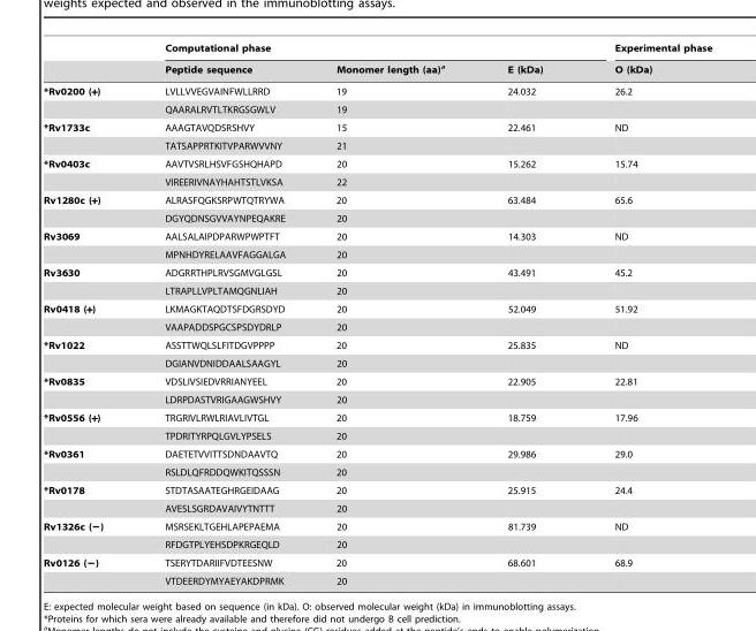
<table><thead><tr><td rowspan="2"></td><td colspan="3">Computational phase</td><td rowspan="2">Experimental phase O (kDa)</td></tr><tr><td>Peptide sequence</td><td>Monomer length (aa)<sup>a</sup></td><td>E (kDa)</td></tr></thead><tbody><tr><td rowspan="2">*Rv0200 (+)</td><td>LVLLVVEGVAINFWLLRRD</td><td>19</td><td>24.032</td><td>26.2</td></tr><tr><td>QAARALRVTLTKRGSGWLV</td><td>19</td><td></td><td></td></tr><tr><td rowspan="2">*Rv1733c</td><td>AAAGTAVQDSRSHVY</td><td>15</td><td>22.461</td><td>ND</td></tr><tr><td>TATSAPPRTKITVPARWVVNY</td><td>21</td><td></td><td></td></tr><tr><td rowspan="2">*Rv0403c</td><td>AAVTVSRLHSVFGSHQHAPD</td><td>20</td><td>15.262</td><td>15.74</td></tr><tr><td>VIREERIVNAYHAHTSTLVKSA</td><td>22</td><td></td><td></td></tr><tr><td rowspan="2">Rv1280c (+)</td><td>ALRASFQGKSRPWTQTRYWA</td><td>20</td><td>63.484</td><td>65.6</td></tr><tr><td>DGYQDNSGVVAYNPEQAKRE</td><td>20</td><td></td><td></td></tr><tr><td rowspan="2">Rv3069</td><td>AALSALAIPDPARWPWPTFT</td><td>20</td><td>14.303</td><td>ND</td></tr><tr><td>MPNHDYRELAAVFAGGALGA</td><td>20</td><td></td><td></td></tr><tr><td rowspan="2">Rv3630</td><td>ADGRRTHPLRVSGMVGLGSL</td><td>20</td><td>43.491</td><td>45.2</td></tr><tr><td>LTRAPLLVPLTAMQGNLIAH</td><td>20</td><td></td><td></td></tr><tr><td rowspan="2">Rv0418 (+)</td><td>LKMAGKTAQDTSFDGRSDYD</td><td>20</td><td>52.049</td><td>51.92</td></tr><tr><td>VAAPADDSPGCSPSDYDRLP</td><td>20</td><td></td><td></td></tr><tr><td rowspan="2">*Rv1022</td><td>ASSTTWQLSLFITDGVPPPP</td><td>20</td><td>25.835</td><td>ND</td></tr><tr><td>DGIANVDNIDDAALSAAGYL</td><td>20</td><td></td><td></td></tr><tr><td rowspan="2">*Rv0835</td><td>VDSLIVSIEDVRRIANYEEL</td><td>20</td><td>22.905</td><td>22.81</td></tr><tr><td>LDRPDASTVRIGAAGWSHVY</td><td>20</td><td></td><td></td></tr><tr><td rowspan="2">*Rv0556 (+)</td><td>TRGRIVLRWLRIAVLIVTGL</td><td>20</td><td>18.759</td><td>17.96</td></tr><tr><td>TPDRITYRPQLGVLYPSELS</td><td>20</td><td></td><td></td></tr><tr><td rowspan="2">*Rv0361</td><td>DAETETVVITTSDNDAAVTQ</td><td>20</td><td>29.986</td><td>29.0</td></tr><tr><td>RSLDLQFRDDQWKITQSSSN</td><td>20</td><td></td><td></td></tr><tr><td rowspan="2">*Rv0178</td><td>STDTASAATEGHRGEIDAAG</td><td>20</td><td>25.915</td><td>24.4</td></tr><tr><td>AVESLSGRDAVAIVYTNTTT</td><td>20</td><td></td><td></td></tr><tr><td rowspan="2">Rv1326c (−)</td><td>MSRSEKLTGEHLAPEPAEMA</td><td>20</td><td>81.739</td><td>ND</td></tr><tr><td>RFDGTPLYEHSDPKRGEQLD</td><td>20</td><td></td><td></td></tr><tr><td rowspan="2">Rv0126 (−)</td><td>TSERYTDARIIFVDTEESNW</td><td>20</td><td>68.601</td><td>68.9</td></tr><tr><td>VTDEERDYMYAEYAKDPRMK</td><td>20</td><td></td><td></td></tr></tbody></table>